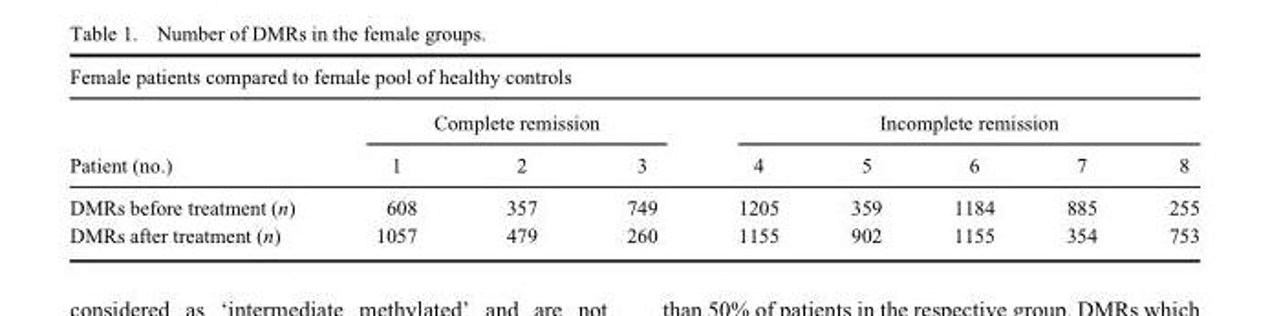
<table><thead><tr><td colspan="9">Female patients compared to female pool of healthy controls</td></tr><tr><td rowspan="2">Patient (no.)</td><td colspan="3">Complete remission</td><td colspan="5">Incomplete remission</td></tr><tr><td>1</td><td>2</td><td>3</td><td>4</td><td>5</td><td>6</td><td>7</td><td>8</td></tr></thead><tbody><tr><td>DMRs before treatment (n)</td><td>608</td><td>357</td><td>749</td><td>1205</td><td>359</td><td>1184</td><td>885</td><td>255</td></tr><tr><td>DMRs after treatment (n)</td><td>1057</td><td>479</td><td>260</td><td>1155</td><td>902</td><td>1155</td><td>354</td><td>753</td></tr></tbody></table>